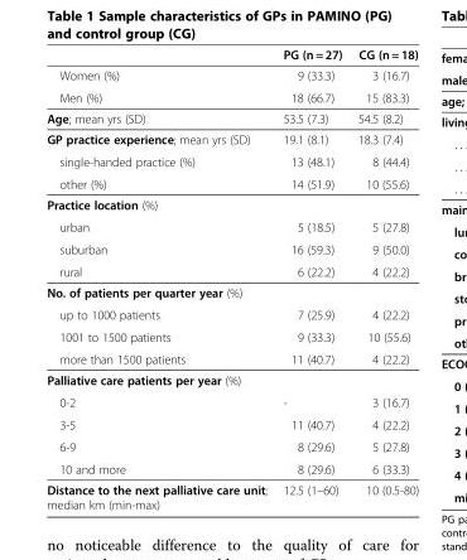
<table><thead><tr><td></td><td>PG (n = 27)</td><td>CG (n = 18)</td></tr></thead><tbody><tr><td>Women (%)</td><td>9 (33.3)</td><td>3 (16.7)</td></tr><tr><td>Men (%)</td><td>18 (66.7)</td><td>15 (83.3)</td></tr><tr><td>Age; mean yrs (SD)</td><td>53.5 (7.3)</td><td>54.5 (8.2)</td></tr><tr><td>GP practice experience; mean yrs (SD)</td><td>19.1 (8.1)</td><td>18.3 (7.4)</td></tr><tr><td>single-handed practice (%)</td><td>13 (48.1)</td><td>8 (44.4)</td></tr><tr><td>other (%)</td><td>14 (51.9)</td><td>10 (55.6)</td></tr><tr><td colspan="3">Practice location (%)</td></tr><tr><td>urban</td><td>5 (18.5)</td><td>5 (27.8)</td></tr><tr><td>suburban</td><td>16 (59.3)</td><td>9 (50.0)</td></tr><tr><td>rural</td><td>6 (22.2)</td><td>4 (22.2)</td></tr><tr><td colspan="3">No. of patients per quarter year (%)</td></tr><tr><td>up to 1000 patients</td><td>7 (25.9)</td><td>4 (22.2)</td></tr><tr><td>1001 to 1500 patients</td><td>9 (33.3)</td><td>10 (55.6)</td></tr><tr><td>more than 1500 patients</td><td>11 (40.7)</td><td>4 (22.2)</td></tr><tr><td colspan="3">Palliative care patients per year (%)</td></tr><tr><td>0-2</td><td>-</td><td>3 (16.7)</td></tr><tr><td>3-5</td><td>11 (40.7)</td><td>4 (22.2)</td></tr><tr><td>6-9</td><td>8 (29.6)</td><td>5 (27.8)</td></tr><tr><td>10 and more</td><td>8 (29.6)</td><td>6 (33.3)</td></tr><tr><td>Distance to the next palliative care unit; median km (min-max)</td><td>12.5 (1–60)</td><td>10 (0.5-80)</td></tr></tbody></table>